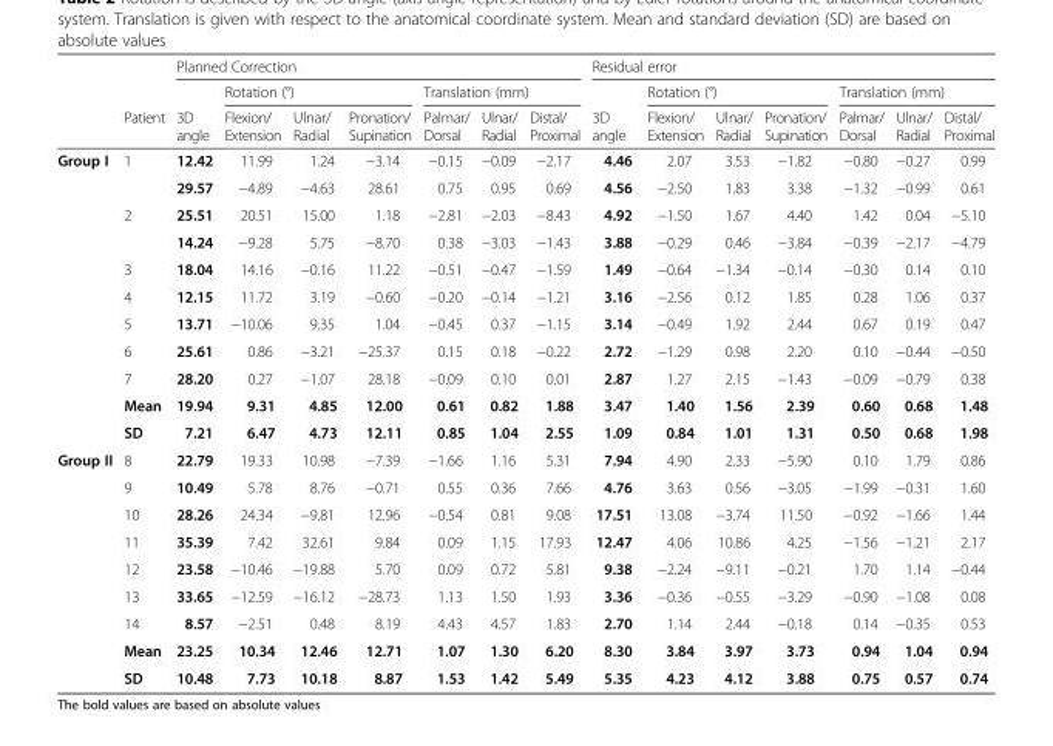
<table><thead><tr><td rowspan="3"></td><td rowspan="3">Patient</td><td colspan="7">Planned Correction</td><td colspan="7">Residual error</td></tr><tr><td rowspan="2">3D angle</td><td colspan="3">Rotation (°)</td><td colspan="3">Translation (mm)</td><td rowspan="2">3D angle</td><td colspan="3">Rotation (°)</td><td colspan="3">Translation (mm)</td></tr><tr><td>Flexion/ Extension</td><td>Ulnar/ Radial</td><td>Pronation/ Supination</td><td>Palmar/ Dorsal</td><td>Ulnar/ Radial</td><td>Distal/ Proximal</td><td>Flexion/ Extension</td><td>Ulnar/ Radial</td><td>Pronation/ Supination</td><td>Palmar/ Dorsal</td><td>Ulnar/ Radial</td><td>Distal/ Proximal</td></tr></thead><tbody><tr><td rowspan="11">Group I</td><td>1</td><td>12.42</td><td>11.99</td><td>1.24</td><td>−3.14</td><td>−0.15</td><td>−0.09</td><td>−2.17</td><td>4.46</td><td>2.07</td><td>3.53</td><td>−1.82</td><td>−0.80</td><td>−0.27</td><td>0.99</td></tr><tr><td></td><td>29.57</td><td>−4.89</td><td>−4.63</td><td>28.61</td><td>0.75</td><td>0.95</td><td>0.69</td><td>4.56</td><td>−2.50</td><td>1.83</td><td>3.38</td><td>−1.32</td><td>−0.99</td><td>0.61</td></tr><tr><td>2</td><td>25.51</td><td>20.51</td><td>15.00</td><td>1.18</td><td>−2.81</td><td>−2.03</td><td>−8.43</td><td>4.92</td><td>−1.50</td><td>1.67</td><td>4.40</td><td>1.42</td><td>0.04</td><td>−5.10</td></tr><tr><td></td><td>14.24</td><td>−9.28</td><td>5.75</td><td>−8.70</td><td>0.38</td><td>−3.03</td><td>−1.43</td><td>3.88</td><td>−0.29</td><td>0.46</td><td>−3.84</td><td>−0.39</td><td>−2.17</td><td>−4.79</td></tr><tr><td>3</td><td>18.04</td><td>14.16</td><td>−0.16</td><td>11.22</td><td>−0.51</td><td>−0.47</td><td>−1.59</td><td>1.49</td><td>−0.64</td><td>−1.34</td><td>−0.14</td><td>−0.30</td><td>0.14</td><td>0.10</td></tr><tr><td>4</td><td>12.15</td><td>11.72</td><td>3.19</td><td>−0.60</td><td>−0.20</td><td>−0.14</td><td>−1.21</td><td>3.16</td><td>−2.56</td><td>0.12</td><td>1.85</td><td>0.28</td><td>1.06</td><td>0.37</td></tr><tr><td>5</td><td>13.71</td><td>−10.06</td><td>9.35</td><td>1.04</td><td>−0.45</td><td>0.37</td><td>−1.15</td><td>3.14</td><td>−0.49</td><td>1.92</td><td>2.44</td><td>0.67</td><td>0.19</td><td>0.47</td></tr><tr><td>6</td><td>25.61</td><td>0.86</td><td>−3.21</td><td>−25.37</td><td>0.15</td><td>0.18</td><td>−0.22</td><td>2.72</td><td>−1.29</td><td>0.98</td><td>2.20</td><td>0.10</td><td>−0.44</td><td>−0.50</td></tr><tr><td>7</td><td>28.20</td><td>0.27</td><td>−1.07</td><td>28.18</td><td>−0.09</td><td>0.10</td><td>0.01</td><td>2.87</td><td>1.27</td><td>2.15</td><td>−1.43</td><td>−0.09</td><td>−0.79</td><td>0.38</td></tr><tr><td>Mean</td><td>19.94</td><td>9.31</td><td>4.85</td><td>12.00</td><td>0.61</td><td>0.82</td><td>1.88</td><td>3.47</td><td>1.40</td><td>1.56</td><td>2.39</td><td>0.60</td><td>0.68</td><td>1.48</td></tr><tr><td>SD</td><td>7.21</td><td>6.47</td><td>4.73</td><td>12.11</td><td>0.85</td><td>1.04</td><td>2.55</td><td>1.09</td><td>0.84</td><td>1.01</td><td>1.31</td><td>0.50</td><td>0.68</td><td>1.98</td></tr><tr><td rowspan="9">Group II</td><td>8</td><td>22.79</td><td>19.33</td><td>10.98</td><td>−7.39</td><td>−1.66</td><td>1.16</td><td>5.31</td><td>7.94</td><td>4.90</td><td>2.33</td><td>−5.90</td><td>0.10</td><td>1.79</td><td>0.86</td></tr><tr><td>9</td><td>10.49</td><td>5.78</td><td>8.76</td><td>−0.71</td><td>0.55</td><td>0.36</td><td>7.66</td><td>4.76</td><td>3.63</td><td>0.56</td><td>−3.05</td><td>−1.99</td><td>−0.31</td><td>1.60</td></tr><tr><td>10</td><td>28.26</td><td>24.34</td><td>−9.81</td><td>12.96</td><td>−0.54</td><td>0.81</td><td>9.08</td><td>17.51</td><td>13.08</td><td>−3.74</td><td>11.50</td><td>−0.92</td><td>−1.66</td><td>1.44</td></tr><tr><td>11</td><td>35.39</td><td>7.42</td><td>32.61</td><td>9.84</td><td>0.09</td><td>1.15</td><td>17.93</td><td>12.47</td><td>4.06</td><td>10.86</td><td>4.25</td><td>−1.56</td><td>−1.21</td><td>2.17</td></tr><tr><td>12</td><td>23.58</td><td>−10.46</td><td>−19.88</td><td>5.70</td><td>0.09</td><td>0.72</td><td>5.81</td><td>9.38</td><td>−2.24</td><td>−9.11</td><td>−0.21</td><td>1.70</td><td>1.14</td><td>−0.44</td></tr><tr><td>13</td><td>33.65</td><td>−12.59</td><td>−16.12</td><td>−28.73</td><td>1.13</td><td>1.50</td><td>1.93</td><td>3.36</td><td>−0.36</td><td>−0.55</td><td>−3.29</td><td>−0.90</td><td>−1.08</td><td>0.08</td></tr><tr><td>14</td><td>8.57</td><td>−2.51</td><td>0.48</td><td>8.19</td><td>4.43</td><td>4.57</td><td>1.83</td><td>2.70</td><td>1.14</td><td>2.44</td><td>−0.18</td><td>0.14</td><td>−0.35</td><td>0.53</td></tr><tr><td>Mean</td><td>23.25</td><td>10.34</td><td>12.46</td><td>12.71</td><td>1.07</td><td>1.30</td><td>6.20</td><td>8.30</td><td>3.84</td><td>3.97</td><td>3.73</td><td>0.94</td><td>1.04</td><td>0.94</td></tr><tr><td>SD</td><td>10.48</td><td>7.73</td><td>10.18</td><td>8.87</td><td>1.53</td><td>1.42</td><td>5.49</td><td>5.35</td><td>4.23</td><td>4.12</td><td>3.88</td><td>0.75</td><td>0.57</td><td>0.74</td></tr></tbody></table>